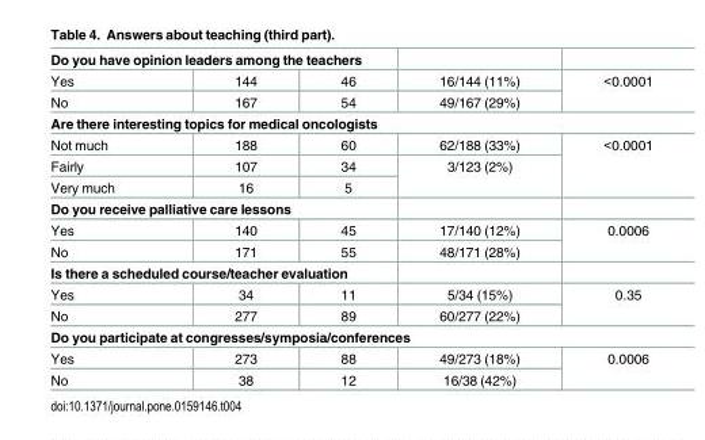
<table><tbody><tr><td colspan="5">Do you have opinion leaders among the teachers</td></tr><tr><td>Yes</td><td>144</td><td>46</td><td>16/144 (11%)</td><td rowspan="2">&lt;0.0001</td></tr><tr><td>No</td><td>167</td><td>54</td><td>49/167 (29%)</td></tr><tr><td colspan="5">Are there interesting topics for medical oncologists</td></tr><tr><td>Not much</td><td>188</td><td>60</td><td>62/188 (33%)</td><td rowspan="3">&lt;0.0001</td></tr><tr><td>Fairly</td><td>107</td><td>34</td><td rowspan="2">3/123 (2%)</td></tr><tr><td>Very much</td><td>16</td><td>5</td></tr><tr><td colspan="5">Do you receive palliative care lessons</td></tr><tr><td>Yes</td><td>140</td><td>45</td><td>17/140 (12%)</td><td rowspan="2">0.0006</td></tr><tr><td>No</td><td>171</td><td>55</td><td>48/171 (28%)</td></tr><tr><td colspan="5">Is there a scheduled course/teacher evaluation</td></tr><tr><td>Yes</td><td>34</td><td>11</td><td>5/34 (15%)</td><td rowspan="2">0.35</td></tr><tr><td>No</td><td>277</td><td>89</td><td>60/277 (22%)</td></tr><tr><td colspan="5">Do you participate at congresses/symposia/conferences</td></tr><tr><td>Yes</td><td>273</td><td>88</td><td>49/273 (18%)</td><td rowspan="2">0.0006</td></tr><tr><td>No</td><td>38</td><td>12</td><td>16/38 (42%)</td></tr></tbody></table>